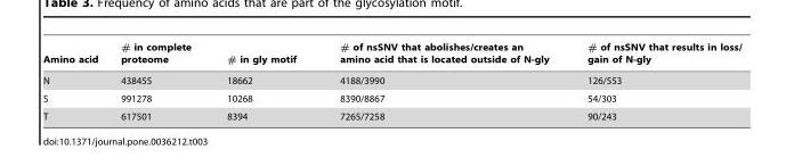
<table><thead><tr><td>Amino acid</td><td># in complete proteome</td><td># in gly motif</td><td># of nsSNV that abolishes/creates an amino acid that is located outside of N-gly</td><td># of nsSNV that results in loss/ gain of N-gly</td></tr></thead><tbody><tr><td>N</td><td>438455</td><td>18662</td><td>4188/3990</td><td>126/553</td></tr><tr><td>S</td><td>991278</td><td>10268</td><td>8390/8867</td><td>54/303</td></tr><tr><td>T</td><td>617501</td><td>8394</td><td>7265/7258</td><td>90/243</td></tr></tbody></table>